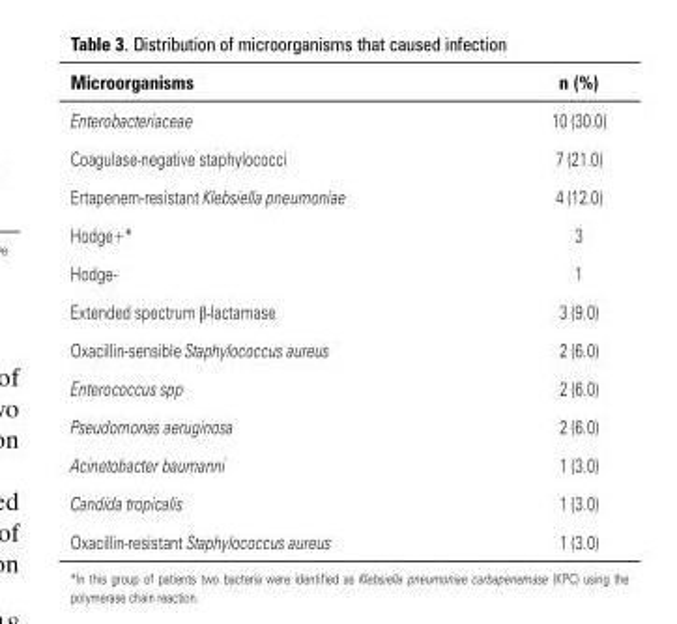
<table><thead><tr><td>Microorganisms</td><td>n (%)</td></tr></thead><tbody><tr><td>Enterobacteriaceae</td><td>10 (30.0)</td></tr><tr><td>Coagulase-negative staphylococci</td><td>7 (21.0)</td></tr><tr><td>Ertapenem-resistant Klebsiella pneumoniae</td><td>4 (12.0)</td></tr><tr><td>Hodge+*</td><td>3</td></tr><tr><td>Hodge-</td><td>1</td></tr><tr><td>Extended spectrum β-lactamase</td><td>3 (9.0)</td></tr><tr><td>Oxacillin-sensible Staphylococcus aureus</td><td>2 (6.0)</td></tr><tr><td>Enterococcus spp</td><td>2 (6.0)</td></tr><tr><td>Pseudomonas aeruginosa</td><td>2 (6.0)</td></tr><tr><td>Acinetobacter baumanni</td><td>1 (3.0)</td></tr><tr><td>Candida tropicalis</td><td>1 (3.0)</td></tr><tr><td>Oxacillin-resistant Staphylococcus aureus</td><td>1 (3.0)</td></tr></tbody></table>